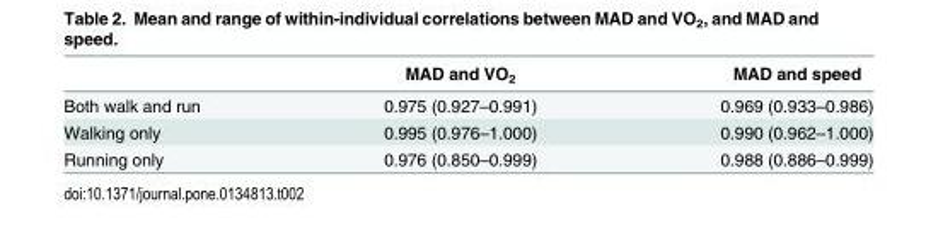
<table><thead><tr><td></td><td>MAD and VO<sub>2</sub></td><td>MAD and speed</td></tr></thead><tbody><tr><td>Both walk and run</td><td>0.975 (0.927–0.991)</td><td>0.969 (0.933–0.986)</td></tr><tr><td>Walking only</td><td>0.995 (0.976–1.000)</td><td>0.990 (0.962–1.000)</td></tr><tr><td>Running only</td><td>0.976 (0.850–0.999)</td><td>0.988 (0.886–0.999)</td></tr></tbody></table>